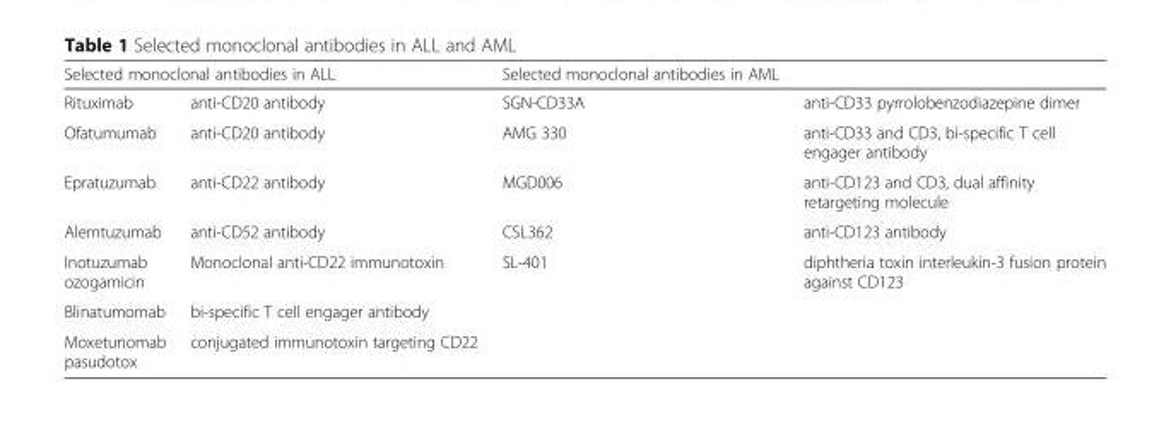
<table><thead><tr><td colspan="2">Selected monoclonal antibodies in ALL</td><td rowspan="2">Selected monoclonal antibodies in AML SGN-CD33A</td><td rowspan="2">anti-CD33 pyrrolobenzodiazepine dimer</td></tr><tr><td>Rituximab</td><td>anti-CD20 antibody</td></tr></thead><tbody><tr><td>Ofatumumab</td><td>anti-CD20 antibody</td><td>AMG 330</td><td>anti-CD33 and CD3, bi-specific T cell engager antibody</td></tr><tr><td>Epratuzumab</td><td>anti-CD22 antibody</td><td>MGD006</td><td>anti-CD123 and CD3, dual affinity retargeting molecule</td></tr><tr><td>Alemtuzumab</td><td>anti-CD52 antibody</td><td>CSL362</td><td>anti-CD123 antibody</td></tr><tr><td>Inotuzumab ozogamicin</td><td>Monoclonal anti-CD22 immunotoxin</td><td>SL-401</td><td>diphtheria toxin interleukin-3 fusion protein against CD123</td></tr><tr><td>Blinatumomab</td><td>bi-specific T cell engager antibody</td><td></td><td></td></tr><tr><td>Moxetunomab pasudotox</td><td>conjugated immunotoxin targeting CD22</td><td></td><td></td></tr></tbody></table>